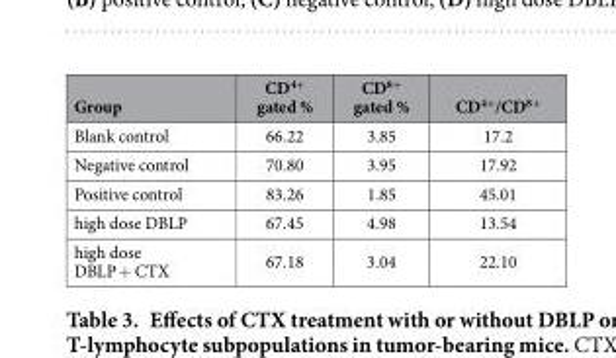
<table><thead><tr><td>Group</td><td>CD<sup>4+</sup> gated %</td><td>CD<sup>8+</sup> gated %</td><td>CD<sup>4+</sup>/CD<sup>8+</sup></td></tr></thead><tbody><tr><td>Blank control</td><td>66.22</td><td>3.85</td><td>17.2</td></tr><tr><td>Negative control</td><td>70.80</td><td>3.95</td><td>17.92</td></tr><tr><td>Positive control</td><td>83.26</td><td>1.85</td><td>45.01</td></tr><tr><td>high dose DBLP</td><td>67.45</td><td>4.98</td><td>13.54</td></tr><tr><td>high dose DBLP + CTX</td><td>67.18</td><td>3.04</td><td>22.10</td></tr></tbody></table>